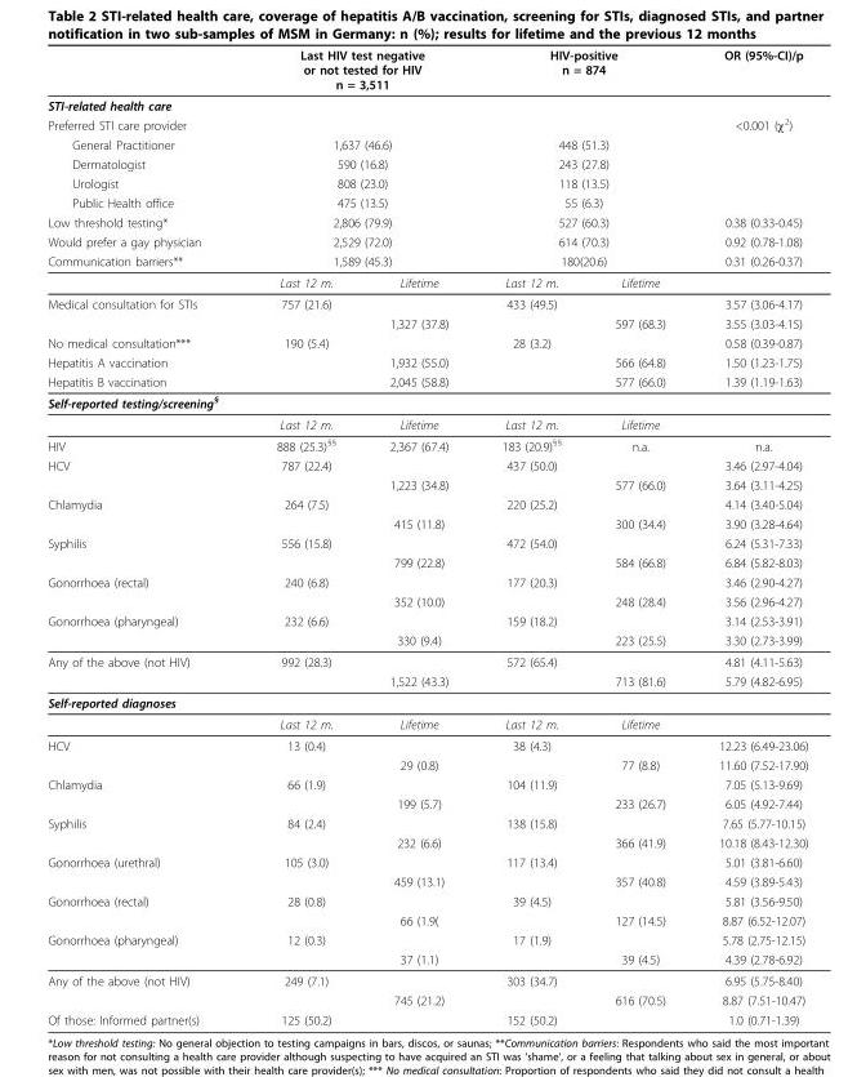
<table><thead><tr><td></td><td colspan="2">Last HIV test negative or not tested for HIV n = 3,511</td><td colspan="2">HIV-positive n = 874</td><td>OR (95%-CI)/p</td></tr><tr><td colspan="6">STI-related health care</td></tr><tr><td>Preferred STI care provider</td><td></td><td></td><td></td><td></td><td>&lt;0.001 (χ<sup>2</sup>)</td></tr></thead><tbody><tr><td>General Practitioner</td><td colspan="2">1,637 (46.6)</td><td colspan="2">448 (51.3)</td><td></td></tr><tr><td>Dermatologist</td><td colspan="2">590 (16.8)</td><td colspan="2">243 (27.8)</td><td></td></tr><tr><td>Urologist</td><td colspan="2">808 (23.0)</td><td colspan="2">118 (13.5)</td><td></td></tr><tr><td>Public Health office</td><td colspan="2">475 (13.5)</td><td colspan="2">55 (6.3)</td><td></td></tr><tr><td>Low threshold testing*</td><td colspan="2">2,806 (79.9)</td><td colspan="2">527 (60.3)</td><td>0.38 (0.33-0.45)</td></tr><tr><td>Would prefer a gay physician</td><td colspan="2">2,529 (72.0)</td><td colspan="2">614 (70.3)</td><td>0.92 (0.78-1.08)</td></tr><tr><td rowspan="2">Communication barriers**</td><td colspan="2">1,589 (45.3)</td><td colspan="2">180(20.6)</td><td>0.31 (0.26-0.37)</td></tr><tr><td>Last 12 m.</td><td>Lifetime</td><td>Last 12 m.</td><td>Lifetime</td><td></td></tr><tr><td rowspan="2">Medical consultation for STIs</td><td>757 (21.6)</td><td></td><td>433 (49.5)</td><td></td><td>3.57 (3.06-4.17)</td></tr><tr><td></td><td>1,327 (37.8)</td><td></td><td>597 (68.3)</td><td>3.55 (3.03-4.15)</td></tr><tr><td>No medical consultation***</td><td>190 (5.4)</td><td></td><td>28 (3.2)</td><td></td><td>0.58 (0.39-0.87)</td></tr><tr><td>Hepatitis A vaccination</td><td></td><td>1,932 (55.0)</td><td></td><td>566 (64.8)</td><td>1.50 (1.23-1.75)</td></tr><tr><td>Hepatitis B vaccination</td><td></td><td>2,045 (58.8)</td><td></td><td>577 (66.0)</td><td>1.39 (1.19-1.63)</td></tr><tr><td colspan="6">Self-reported testing/screening<sup>§</sup></td></tr><tr><td></td><td>Last 12 m.</td><td>Lifetime</td><td>Last 12 m.</td><td>Lifetime</td><td></td></tr><tr><td>HIV</td><td>888 (25.3)<sup>§§</sup></td><td>2,367 (67.4)</td><td>183 (20.9)<sup>§§</sup></td><td>n.a.</td><td>n.a.</td></tr><tr><td rowspan="2">HCV</td><td>787 (22.4)</td><td></td><td>437 (50.0)</td><td></td><td>3.46 (2.97-4.04)</td></tr><tr><td></td><td>1,223 (34.8)</td><td></td><td>577 (66.0)</td><td>3.64 (3.11-4.25)</td></tr><tr><td rowspan="2">Chlamydia</td><td>264 (7.5)</td><td></td><td>220 (25.2)</td><td></td><td>4.14 (3.40-5.04)</td></tr><tr><td></td><td>415 (11.8)</td><td></td><td>300 (34.4)</td><td>3.90 (3.28-4.64)</td></tr><tr><td rowspan="2">Syphilis</td><td>556 (15.8)</td><td></td><td>472 (54.0)</td><td></td><td>6.24 (5.31-7.33)</td></tr><tr><td></td><td>799 (22.8)</td><td></td><td>584 (66.8)</td><td>6.84 (5.82-8.03)</td></tr><tr><td rowspan="2">Gonorrhoea (rectal)</td><td>240 (6.8)</td><td></td><td>177 (20.3)</td><td></td><td>3.46 (2.90-4.27)</td></tr><tr><td></td><td>352 (10.0)</td><td></td><td>248 (28.4)</td><td>3.56 (2.96-4.27)</td></tr><tr><td rowspan="2">Gonorrhoea (pharyngeal)</td><td>232 (6.6)</td><td></td><td>159 (18.2)</td><td></td><td>3.14 (2.53-3.91)</td></tr><tr><td></td><td>330 (9.4)</td><td></td><td>223 (25.5)</td><td>3.30 (2.73-3.99)</td></tr><tr><td rowspan="2">Any of the above (not HIV)</td><td>992 (28.3)</td><td></td><td>572 (65.4)</td><td></td><td>4.81 (4.11-5.63)</td></tr><tr><td></td><td>1,522 (43.3)</td><td></td><td>713 (81.6)</td><td>5.79 (4.82-6.95)</td></tr><tr><td colspan="6">Self-reported diagnoses</td></tr><tr><td></td><td>Last 12 m.</td><td>Lifetime</td><td>Last 12 m.</td><td>Lifetime</td><td></td></tr><tr><td rowspan="2">HCV</td><td>13 (0.4)</td><td></td><td>38 (4.3)</td><td></td><td>12.23 (6.49-23.06)</td></tr><tr><td></td><td>29 (0.8)</td><td></td><td>77 (8.8)</td><td>11.60 (7.52-17.90)</td></tr><tr><td rowspan="2">Chlamydia</td><td>66 (1.9)</td><td></td><td>104 (11.9)</td><td></td><td>7.05 (5.13-9.69)</td></tr><tr><td></td><td>199 (5.7)</td><td></td><td>233 (26.7)</td><td>6.05 (4.92-7.44)</td></tr><tr><td rowspan="2">Syphilis</td><td>84 (2.4)</td><td></td><td>138 (15.8)</td><td></td><td>7.65 (5.77-10.15)</td></tr><tr><td></td><td>232 (6.6)</td><td></td><td>366 (41.9)</td><td>10.18 (8.43-12.30)</td></tr><tr><td rowspan="2">Gonorrhoea (urethral)</td><td>105 (3.0)</td><td></td><td>117 (13.4)</td><td></td><td>5.01 (3.81-6.60)</td></tr><tr><td></td><td>459 (13.1)</td><td></td><td>357 (40.8)</td><td>4.59 (3.89-5.43)</td></tr><tr><td rowspan="2">Gonorrhoea (rectal)</td><td>28 (0.8)</td><td></td><td>39 (4.5)</td><td></td><td>5.81 (3.56-9.50)</td></tr><tr><td></td><td>66 (1.9(</td><td></td><td>127 (14.5)</td><td>8.87 (6.52-12.07)</td></tr><tr><td rowspan="2">Gonorrhoea (pharyngeal)</td><td>12 (0.3)</td><td></td><td>17 (1.9)</td><td></td><td>5.78 (2.75-12.15)</td></tr><tr><td></td><td>37 (1.1)</td><td></td><td>39 (4.5)</td><td>4.39 (2.78-6.92)</td></tr><tr><td rowspan="2">Any of the above (not HIV)</td><td>249 (7.1)</td><td></td><td>303 (34.7)</td><td></td><td>6.95 (5.75-8.40)</td></tr><tr><td></td><td>745 (21.2)</td><td></td><td>616 (70.5)</td><td>8.87 (7.51-10.47)</td></tr><tr><td>Of those: Informed partner(s)</td><td>125 (50.2)</td><td></td><td>152 (50.2)</td><td></td><td>1.0 (0.71-1.39)</td></tr></tbody></table>